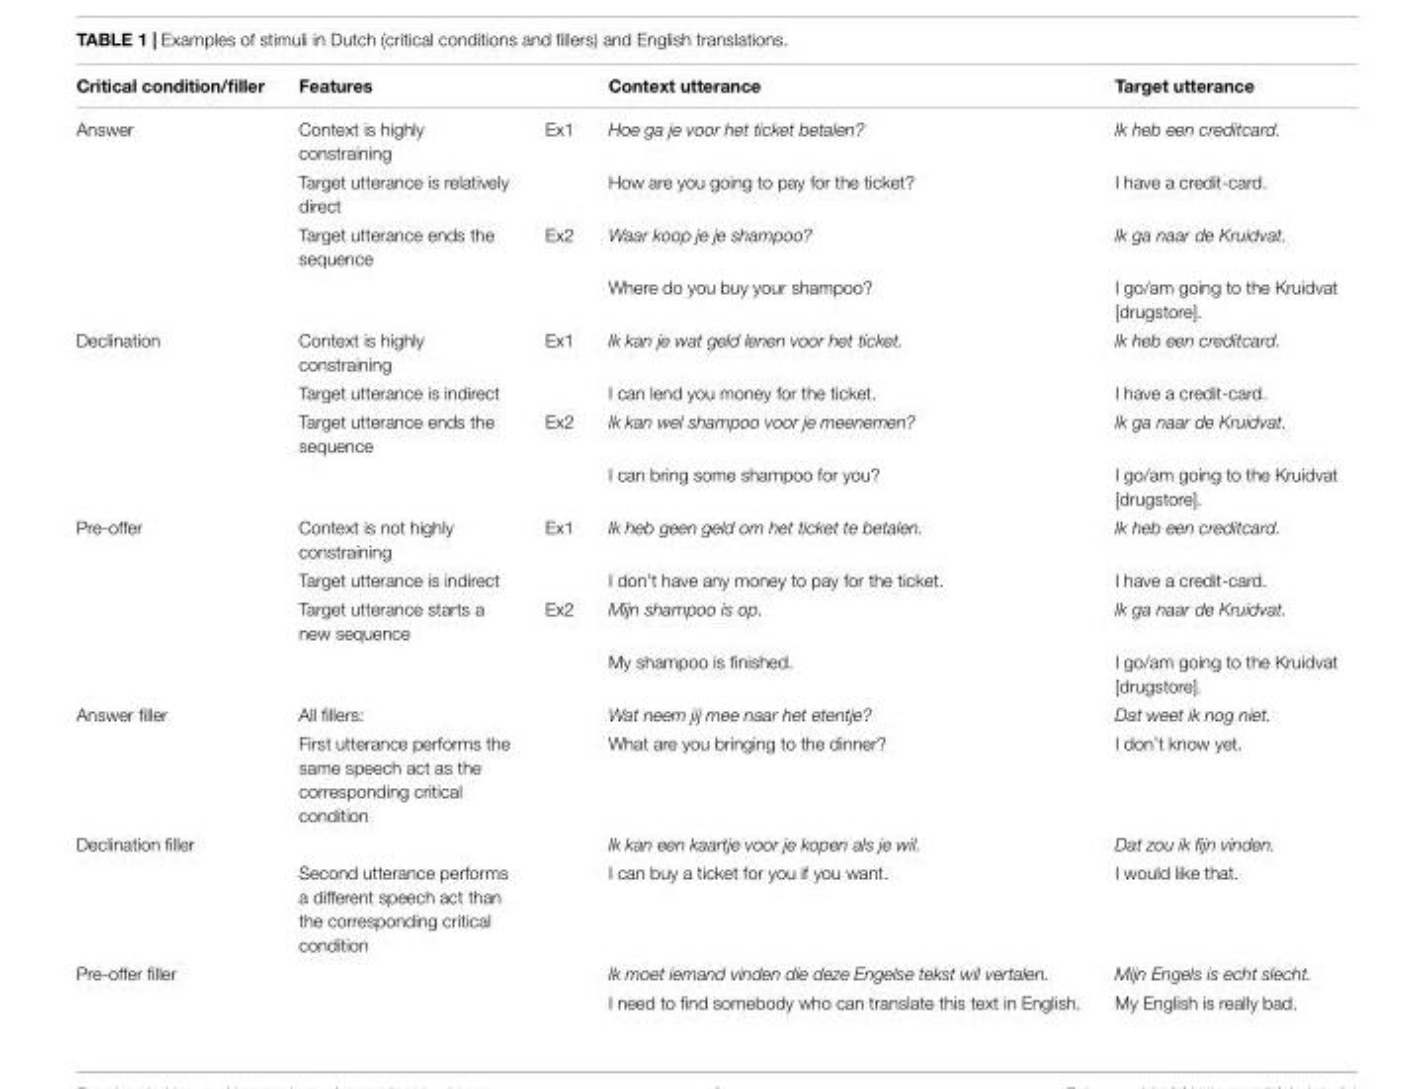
<table><thead><tr><td>Critical condition/filler</td><td>Features</td><td></td><td>Context utterance</td><td>Target utterance</td></tr></thead><tbody><tr><td rowspan="4">Answer</td><td>Context is highly constraining</td><td>Ex1</td><td>Hoe ga je voor het ticket betalen?</td><td>Ik heb een creditcard.</td></tr><tr><td>Target utterance is relatively direct</td><td></td><td>How are you going to pay for the ticket?</td><td>I have a credit-card.</td></tr><tr><td>Target utterance ends the sequence</td><td>Ex2</td><td>Waar koop je je shampoo?</td><td>Ik ga naar de Kruidvat.</td></tr><tr><td></td><td></td><td>Where do you buy your shampoo?</td><td>I go/am going to the Kruidvat [drugstore].</td></tr><tr><td rowspan="4">Declination</td><td>Context is highly constraining</td><td>Ex1</td><td>Ik kan je wat geld lenen voor het ticket.</td><td>Ik heb een creditcard.</td></tr><tr><td>Target utterance is indirect</td><td></td><td>I can lend you money for the ticket.</td><td>I have a credit-card.</td></tr><tr><td>Target utterance ends the sequence</td><td>Ex2</td><td>Ik kan wel shampoo voor je meenemen?</td><td>Ik ga naar de Kruidvat.</td></tr><tr><td></td><td></td><td>I can bring some shampoo for you?</td><td>I go/am going to the Kruidvat [drugstore].</td></tr><tr><td rowspan="4">Pre-offer</td><td>Context is not highly constraining</td><td>Ex1</td><td>Ik heb geen geld om het ticket te betalen.</td><td>Ik heb een creditcard.</td></tr><tr><td>Target utterance is indirect</td><td></td><td>I don’t have any money to pay for the ticket.</td><td>I have a credit-card.</td></tr><tr><td>Target utterance starts a new sequence</td><td>Ex2</td><td>Mijn shampoo is op.</td><td>Ik ga naar de Kruidvat.</td></tr><tr><td></td><td></td><td>My shampoo is finished.</td><td>I go/am going to the Kruidvat [drugstore].</td></tr><tr><td rowspan="2">Answer filler</td><td>All fillers:</td><td></td><td>Wat neem jij mee naar het etentje?</td><td>Dat weet ik nog niet.</td></tr><tr><td>First utterance performs the same speech act as the corresponding critical condition</td><td></td><td>What are you bringing to the dinner?</td><td>I don’t know yet.</td></tr><tr><td rowspan="2">Declination filler</td><td></td><td></td><td>Ik kan een kaartje voor je kopen als je wil.</td><td>Dat zou ik fijn vinden.</td></tr><tr><td>Second utterance performs a different speech act than the corresponding critical condition</td><td></td><td>I can buy a ticket for you if you want.</td><td>I would like that.</td></tr><tr><td rowspan="2">Pre-offer filler</td><td></td><td></td><td>Ik moet iemand vinden die deze Engelse tekst wil vertalen.</td><td>Mijn Engels is echt slecht.</td></tr><tr><td></td><td></td><td>I need to find somebody who can translate this text in English.</td><td>My English is really bad.</td></tr></tbody></table>